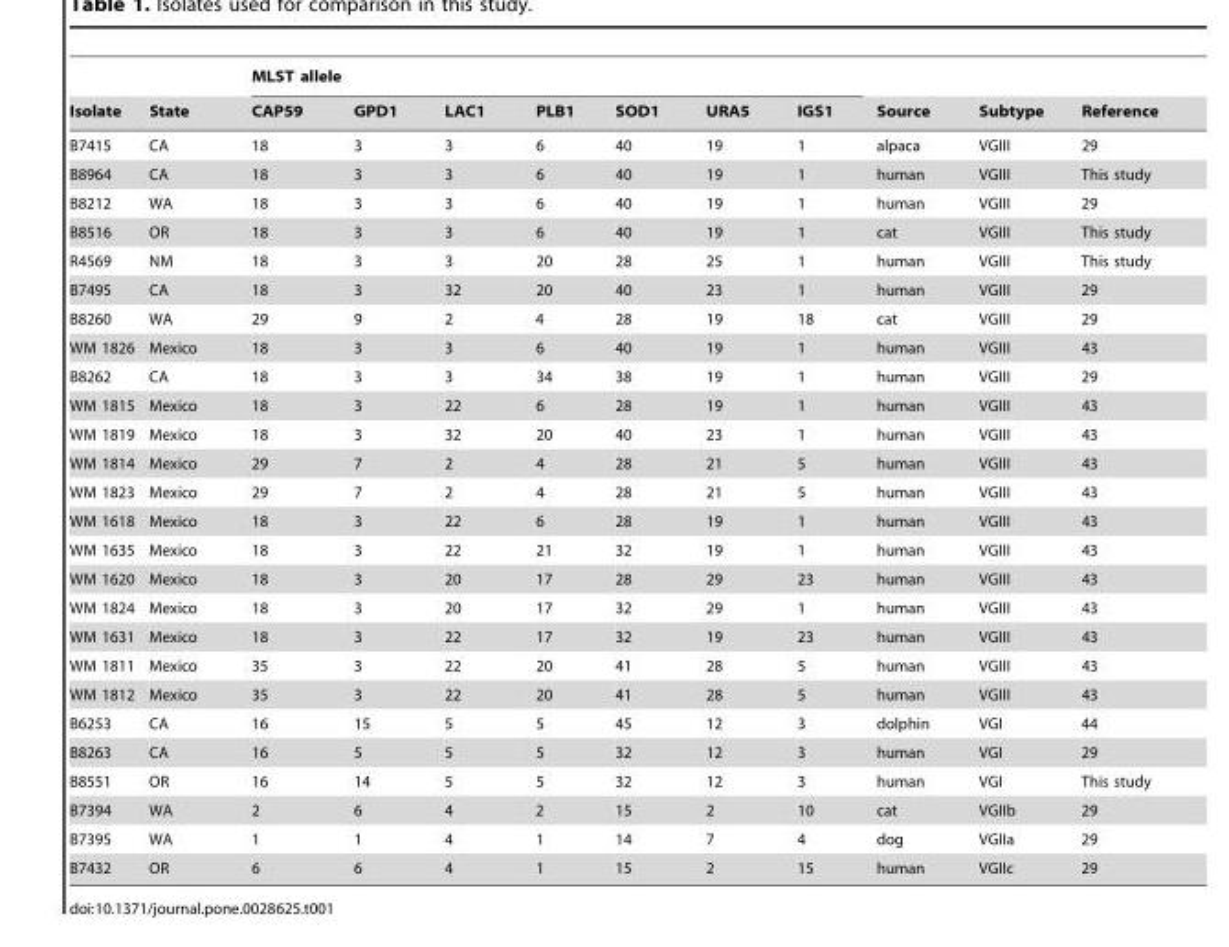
<table><thead><tr><td rowspan="2">Isolate</td><td rowspan="2">State</td><td colspan="7">MLST allele</td><td rowspan="2">Source</td><td rowspan="2">Subtype</td><td rowspan="2">Reference</td></tr><tr><td>CAP59</td><td>GPD1</td><td>LAC1</td><td>PLB1</td><td>SOD1</td><td>URA5</td><td>IGS1</td></tr></thead><tbody><tr><td>B7415</td><td>CA</td><td>18</td><td>3</td><td>3</td><td>6</td><td>40</td><td>19</td><td>1</td><td>alpaca</td><td>VGIII</td><td>29</td></tr><tr><td>B8964</td><td>CA</td><td>18</td><td>3</td><td>3</td><td>6</td><td>40</td><td>19</td><td>1</td><td>human</td><td>VGIII</td><td>This study</td></tr><tr><td>B8212</td><td>WA</td><td>18</td><td>3</td><td>3</td><td>6</td><td>40</td><td>19</td><td>1</td><td>human</td><td>VGIII</td><td>29</td></tr><tr><td>B8516</td><td>OR</td><td>18</td><td>3</td><td>3</td><td>6</td><td>40</td><td>19</td><td>1</td><td>cat</td><td>VGIII</td><td>This study</td></tr><tr><td>R4569</td><td>NM</td><td>18</td><td>3</td><td>3</td><td>20</td><td>28</td><td>25</td><td>1</td><td>human</td><td>VGIII</td><td>This study</td></tr><tr><td>B7495</td><td>CA</td><td>18</td><td>3</td><td>32</td><td>20</td><td>40</td><td>23</td><td>1</td><td>human</td><td>VGIII</td><td>29</td></tr><tr><td>B8260</td><td>WA</td><td>29</td><td>9</td><td>2</td><td>4</td><td>28</td><td>19</td><td>18</td><td>cat</td><td>VGIII</td><td>29</td></tr><tr><td>WM 1826</td><td>Mexico</td><td>18</td><td>3</td><td>3</td><td>6</td><td>40</td><td>19</td><td>1</td><td>human</td><td>VGIII</td><td>43</td></tr><tr><td>B8262</td><td>CA</td><td>18</td><td>3</td><td>3</td><td>34</td><td>38</td><td>19</td><td>1</td><td>human</td><td>VGIII</td><td>29</td></tr><tr><td>WM 1815</td><td>Mexico</td><td>18</td><td>3</td><td>22</td><td>6</td><td>28</td><td>19</td><td>1</td><td>human</td><td>VGIII</td><td>43</td></tr><tr><td>WM 1819</td><td>Mexico</td><td>18</td><td>3</td><td>32</td><td>20</td><td>40</td><td>23</td><td>1</td><td>human</td><td>VGIII</td><td>43</td></tr><tr><td>WM 1814</td><td>Mexico</td><td>29</td><td>7</td><td>2</td><td>4</td><td>28</td><td>21</td><td>5</td><td>human</td><td>VGIII</td><td>43</td></tr><tr><td>WM 1823</td><td>Mexico</td><td>29</td><td>7</td><td>2</td><td>4</td><td>28</td><td>21</td><td>5</td><td>human</td><td>VGIII</td><td>43</td></tr><tr><td>WM 1618</td><td>Mexico</td><td>18</td><td>3</td><td>22</td><td>6</td><td>28</td><td>19</td><td>1</td><td>human</td><td>VGIII</td><td>43</td></tr><tr><td>WM 1635</td><td>Mexico</td><td>18</td><td>3</td><td>22</td><td>21</td><td>32</td><td>19</td><td>1</td><td>human</td><td>VGIII</td><td>43</td></tr><tr><td>WM 1620</td><td>Mexico</td><td>18</td><td>3</td><td>20</td><td>17</td><td>28</td><td>29</td><td>23</td><td>human</td><td>VGIII</td><td>43</td></tr><tr><td>WM 1824</td><td>Mexico</td><td>18</td><td>3</td><td>20</td><td>17</td><td>32</td><td>29</td><td>1</td><td>human</td><td>VGIII</td><td>43</td></tr><tr><td>WM 1631</td><td>Mexico</td><td>18</td><td>3</td><td>22</td><td>17</td><td>32</td><td>19</td><td>23</td><td>human</td><td>VGIII</td><td>43</td></tr><tr><td>WM 1811</td><td>Mexico</td><td>35</td><td>3</td><td>22</td><td>20</td><td>41</td><td>28</td><td>5</td><td>human</td><td>VGIII</td><td>43</td></tr><tr><td>WM 1812</td><td>Mexico</td><td>35</td><td>3</td><td>22</td><td>20</td><td>41</td><td>28</td><td>5</td><td>human</td><td>VGIII</td><td>43</td></tr><tr><td>B6253</td><td>CA</td><td>16</td><td>15</td><td>5</td><td>5</td><td>45</td><td>12</td><td>3</td><td>dolphin</td><td>VGI</td><td>44</td></tr><tr><td>B8263</td><td>CA</td><td>16</td><td>5</td><td>5</td><td>5</td><td>32</td><td>12</td><td>3</td><td>human</td><td>VGI</td><td>29</td></tr><tr><td>B8551</td><td>OR</td><td>16</td><td>14</td><td>5</td><td>5</td><td>32</td><td>12</td><td>3</td><td>human</td><td>VGI</td><td>This study</td></tr><tr><td>B7394</td><td>WA</td><td>2</td><td>6</td><td>4</td><td>2</td><td>15</td><td>2</td><td>10</td><td>cat</td><td>VGIIb</td><td>29</td></tr><tr><td>B7395</td><td>WA</td><td>1</td><td>1</td><td>4</td><td>1</td><td>14</td><td>7</td><td>4</td><td>dog</td><td>VGIIa</td><td>29</td></tr><tr><td>B7432</td><td>OR</td><td>6</td><td>6</td><td>4</td><td>1</td><td>15</td><td>2</td><td>15</td><td>human</td><td>VGIIc</td><td>29</td></tr></tbody></table>